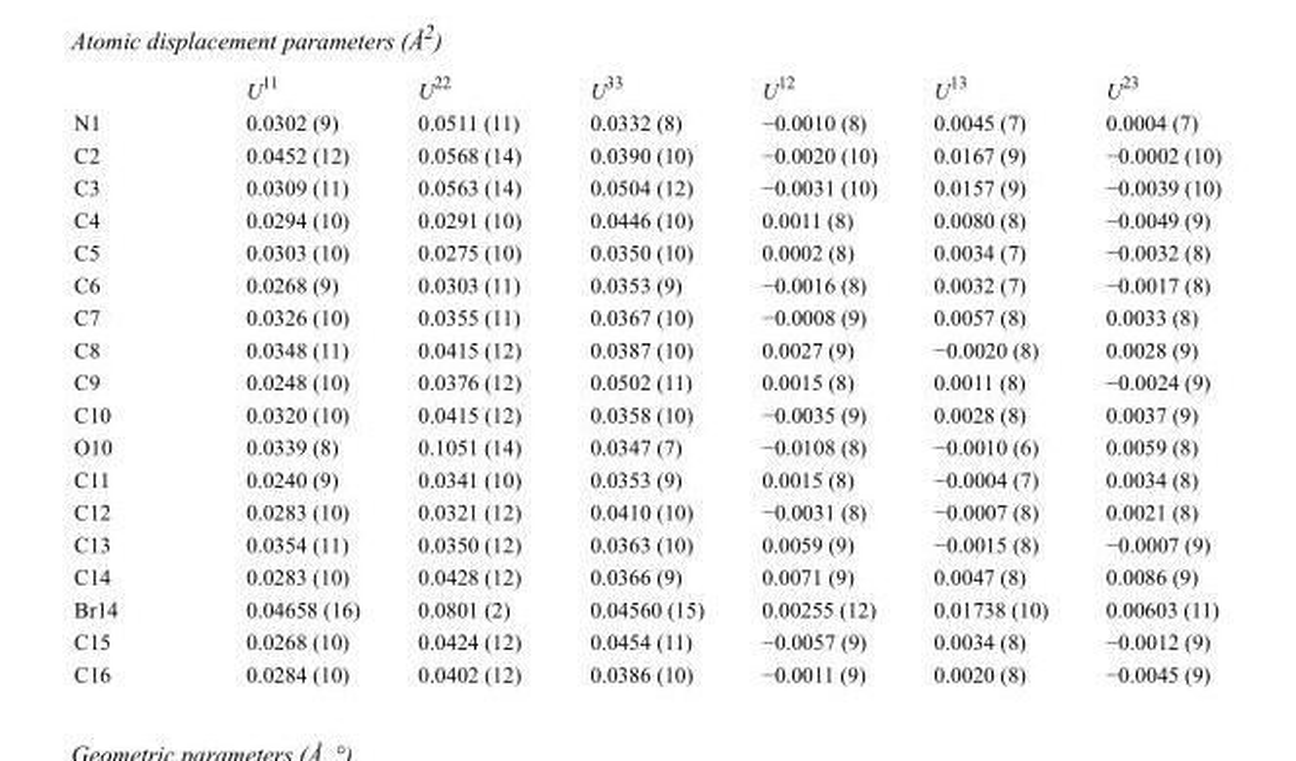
<table><thead><tr><td></td><td>U<sup>11</sup></td><td>U<sup>22</sup></td><td>U<sup>33</sup></td><td>U<sup>12</sup></td><td>U<sup>13</sup></td><td>U<sup>23</sup></td></tr></thead><tbody><tr><td>N1</td><td>0.0302 (9)</td><td>0.0511 (11)</td><td>0.0332 (8)</td><td>−0.0010 (8)</td><td>0.0045 (7)</td><td>0.0004 (7)</td></tr><tr><td>C2</td><td>0.0452 (12)</td><td>0.0568 (14)</td><td>0.0390 (10)</td><td>−0.0020 (10)</td><td>0.0167 (9)</td><td>−0.0002 (10)</td></tr><tr><td>C3</td><td>0.0309 (11)</td><td>0.0563 (14)</td><td>0.0504 (12)</td><td>−0.0031 (10)</td><td>0.0157 (9)</td><td>−0.0039 (10)</td></tr><tr><td>C4</td><td>0.0294 (10)</td><td>0.0291 (10)</td><td>0.0446 (10)</td><td>0.0011 (8)</td><td>0.0080 (8)</td><td>−0.0049 (9)</td></tr><tr><td>C5</td><td>0.0303 (10)</td><td>0.0275 (10)</td><td>0.0350 (10)</td><td>0.0002 (8)</td><td>0.0034 (7)</td><td>−0.0032 (8)</td></tr><tr><td>C6</td><td>0.0268 (9)</td><td>0.0303 (11)</td><td>0.0353 (9)</td><td>−0.0016 (8)</td><td>0.0032 (7)</td><td>−0.0017 (8)</td></tr><tr><td>C7</td><td>0.0326 (10)</td><td>0.0355 (11)</td><td>0.0367 (10)</td><td>−0.0008 (9)</td><td>0.0057 (8)</td><td>0.0033 (8)</td></tr><tr><td>C8</td><td>0.0348 (11)</td><td>0.0415 (12)</td><td>0.0387 (10)</td><td>0.0027 (9)</td><td>−0.0020 (8)</td><td>0.0028 (9)</td></tr><tr><td>C9</td><td>0.0248 (10)</td><td>0.0376 (12)</td><td>0.0502 (11)</td><td>0.0015 (8)</td><td>0.0011 (8)</td><td>−0.0024 (9)</td></tr><tr><td>C10</td><td>0.0320 (10)</td><td>0.0415 (12)</td><td>0.0358 (10)</td><td>−0.0035 (9)</td><td>0.0028 (8)</td><td>0.0037 (9)</td></tr><tr><td>O10</td><td>0.0339 (8)</td><td>0.1051 (14)</td><td>0.0347 (7)</td><td>−0.0108 (8)</td><td>−0.0010 (6)</td><td>0.0059 (8)</td></tr><tr><td>C11</td><td>0.0240 (9)</td><td>0.0341 (10)</td><td>0.0353 (9)</td><td>0.0015 (8)</td><td>−0.0004 (7)</td><td>0.0034 (8)</td></tr><tr><td>C12</td><td>0.0283 (10)</td><td>0.0321 (12)</td><td>0.0410 (10)</td><td>−0.0031 (8)</td><td>−0.0007 (8)</td><td>0.0021 (8)</td></tr><tr><td>C13</td><td>0.0354 (11)</td><td>0.0350 (12)</td><td>0.0363 (10)</td><td>0.0059 (9)</td><td>−0.0015 (8)</td><td>−0.0007 (9)</td></tr><tr><td>C14</td><td>0.0283 (10)</td><td>0.0428 (12)</td><td>0.0366 (9)</td><td>0.0071 (9)</td><td>0.0047 (8)</td><td>0.0086 (9)</td></tr><tr><td>Br14</td><td>0.04658 (16)</td><td>0.0801 (2)</td><td>0.04560 (15)</td><td>0.00255 (12)</td><td>0.01738 (10)</td><td>0.00603 (11)</td></tr><tr><td>C15</td><td>0.0268 (10)</td><td>0.0424 (12)</td><td>0.0454 (11)</td><td>−0.0057 (9)</td><td>0.0034 (8)</td><td>−0.0012 (9)</td></tr><tr><td>C16</td><td>0.0284 (10)</td><td>0.0402 (12)</td><td>0.0386 (10)</td><td>−0.0011 (9)</td><td>0.0020 (8)</td><td>−0.0045 (9)</td></tr></tbody></table>